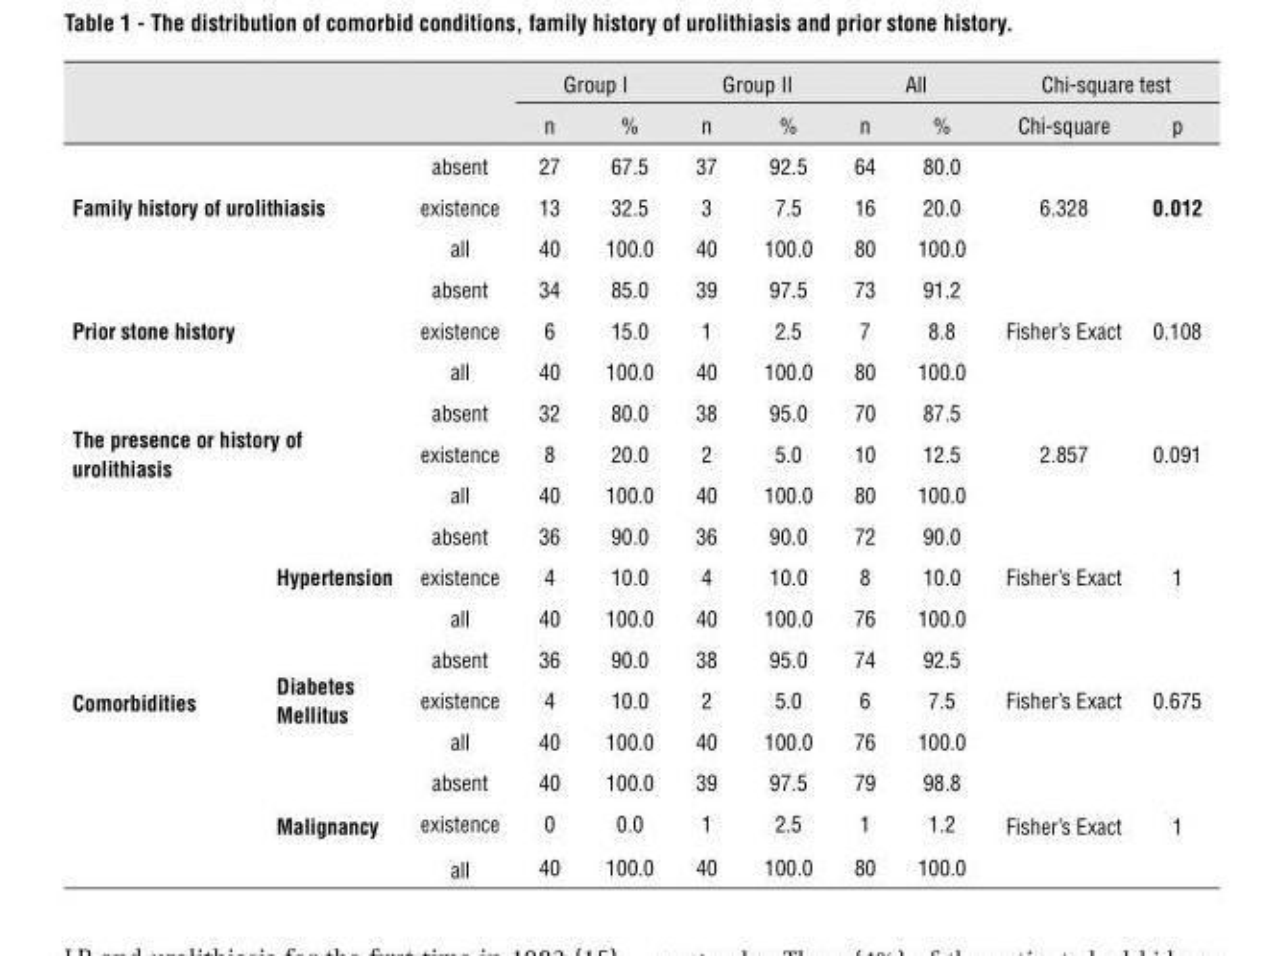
<table><thead><tr><td rowspan="2"></td><td rowspan="2"></td><td rowspan="2"></td><td colspan="2">Group I</td><td colspan="2">Group II</td><td colspan="2">All</td><td colspan="2">Chi-square test</td></tr><tr><td>n</td><td>%</td><td>n</td><td>%</td><td>n</td><td>%</td><td>Chi-square</td><td>p</td></tr></thead><tbody><tr><td rowspan="3" colspan="2">family history of urolithiasis</td><td>absent</td><td>27</td><td>67.5</td><td>37</td><td>92.5</td><td>64</td><td>80.0</td><td rowspan="3">6.328</td><td rowspan="3">0.012</td></tr><tr><td>existence</td><td>13</td><td>32.5</td><td>3</td><td>7.5</td><td>16</td><td>20.0</td></tr><tr><td>all</td><td>40</td><td>100.0</td><td>40</td><td>100.0</td><td>80</td><td>100.0</td></tr><tr><td rowspan="3" colspan="2">prior stone history</td><td>absent</td><td>34</td><td>85.0</td><td>39</td><td>97.5</td><td>73</td><td>91.2</td><td rowspan="3">Fisher’s Exact</td><td rowspan="3">0.108</td></tr><tr><td>existence</td><td>6</td><td>15.0</td><td>1</td><td>2.5</td><td>7</td><td>8.8</td></tr><tr><td>all</td><td>40</td><td>100.0</td><td>40</td><td>100.0</td><td>80</td><td>100.0</td></tr><tr><td rowspan="3" colspan="2">The presence or history of urolithiasis</td><td>absent</td><td>32</td><td>80.0</td><td>38</td><td>95.0</td><td>70</td><td>87.5</td><td rowspan="3">2.857</td><td rowspan="3">0.091</td></tr><tr><td>existence</td><td>8</td><td>20.0</td><td>2</td><td>5.0</td><td>10</td><td>12.5</td></tr><tr><td>all</td><td>40</td><td>100.0</td><td>40</td><td>100.0</td><td>80</td><td>100.0</td></tr><tr><td rowspan="9">Comorbidities</td><td rowspan="3">hypertension</td><td>absent</td><td>36</td><td>90.0</td><td>36</td><td>90.0</td><td>72</td><td>90.0</td><td rowspan="3">Fisher’s Exact</td><td rowspan="3">1</td></tr><tr><td>existence</td><td>4</td><td>10.0</td><td>4</td><td>10.0</td><td>8</td><td>10.0</td></tr><tr><td>all</td><td>40</td><td>100.0</td><td>40</td><td>100.0</td><td>76</td><td>100.0</td></tr><tr><td rowspan="3">Diabetes Mellitus</td><td>absent</td><td>36</td><td>90.0</td><td>38</td><td>95.0</td><td>74</td><td>92.5</td><td rowspan="3">Fisher’s Exact</td><td rowspan="3">0.675</td></tr><tr><td>existence</td><td>4</td><td>10.0</td><td>2</td><td>5.0</td><td>6</td><td>7.5</td></tr><tr><td>all</td><td>40</td><td>100.0</td><td>40</td><td>100.0</td><td>76</td><td>100.0</td></tr><tr><td rowspan="3">Malignancy</td><td>absent</td><td>40</td><td>100.0</td><td>39</td><td>97.5</td><td>79</td><td>98.8</td><td rowspan="3">Fisher’s Exact</td><td rowspan="3">1</td></tr><tr><td>existence</td><td>0</td><td>0.0</td><td>1</td><td>2.5</td><td>1</td><td>1.2</td></tr><tr><td>all</td><td>40</td><td>100.0</td><td>40</td><td>100.0</td><td>80</td><td>100.0</td></tr></tbody></table>